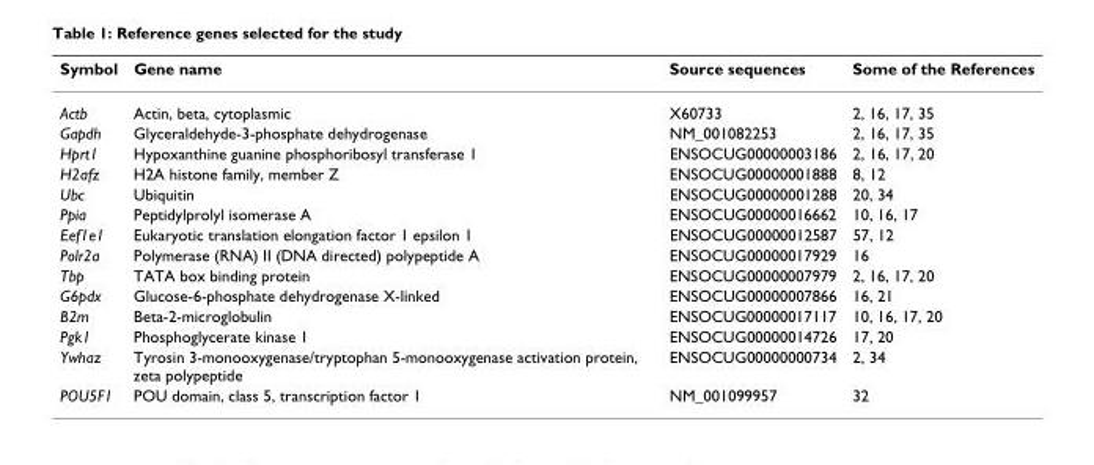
<table><thead><tr><td>Symbol</td><td>Gene name</td><td>Source sequences</td><td>Some of the References</td></tr></thead><tbody><tr><td>Actb</td><td>Actin, beta, cytoplasmic</td><td>X60733</td><td>2, 16, 17, 35</td></tr><tr><td>Gapdh</td><td>Glyceraldehyde-3-phosphate dehydrogenase</td><td>NM_001082253</td><td>2, 16, 17, 35</td></tr><tr><td>Hprt1</td><td>Hypoxanthine guanine phosphoribosyl transferase 1</td><td>ENSOCUG00000003186</td><td>2, 16, 17, 20</td></tr><tr><td>H2afz</td><td>H2A histone family, member Z</td><td>ENSOCUG00000001888</td><td>8, 12</td></tr><tr><td>Ubc</td><td>Ubiquitin</td><td>ENSOCUG00000001288</td><td>20, 34</td></tr><tr><td>Ppia</td><td>Peptidylprolyl isomerase A</td><td>ENSOCUG00000016662</td><td>10, 16, 17</td></tr><tr><td>Eef1e1</td><td>Eukaryotic translation elongation factor 1 epsilon 1</td><td>ENSOCUG00000012587</td><td>57, 12</td></tr><tr><td>Polr2a</td><td>Polymerase (RNA) II (DNA directed) polypeptide A</td><td>ENSOCUG00000017929</td><td>16</td></tr><tr><td>Tbp</td><td>TATA box binding protein</td><td>ENSOCUG00000007979</td><td>2, 16, 17, 20</td></tr><tr><td>G6pdx</td><td>Glucose-6-phosphate dehydrogenase X-linked</td><td>ENSOCUG00000007866</td><td>16, 21</td></tr><tr><td>B2m</td><td>Beta-2-microglobulin</td><td>ENSOCUG00000017117</td><td>10, 16, 17, 20</td></tr><tr><td>Pgk1</td><td>Phosphoglycerate kinase 1</td><td>ENSOCUG00000014726</td><td>17, 20</td></tr><tr><td>Ywhaz</td><td>Tyrosin 3-monooxygenase/tryptophan 5-monooxygenase activation protein, zeta polypeptide</td><td>ENSOCUG00000000734</td><td>2, 34</td></tr><tr><td>POU5F1</td><td>POU domain, class 5, transcription factor 1</td><td>NM_001099957</td><td>32</td></tr></tbody></table>